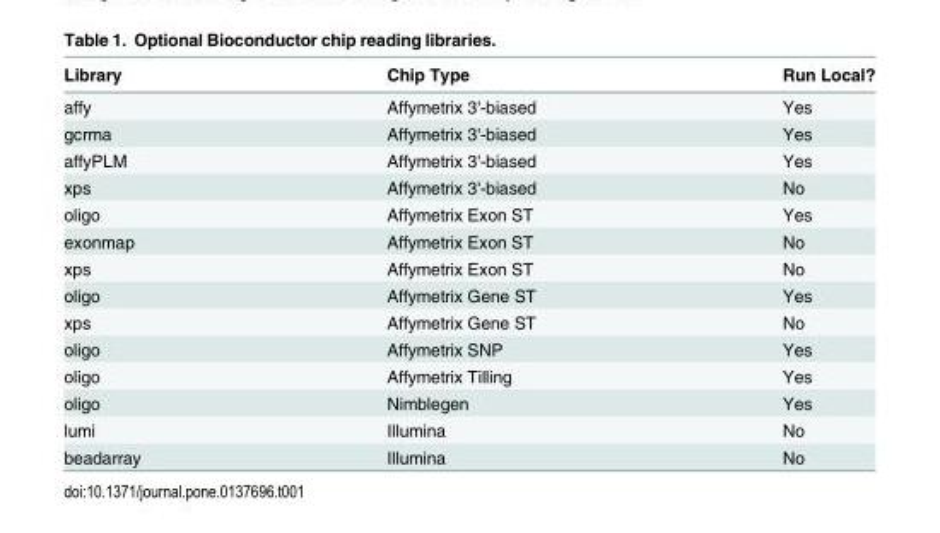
<table><thead><tr><td>Library</td><td>Chip Type</td><td>Run Local?</td></tr></thead><tbody><tr><td>affy</td><td>Affymetrix 3&#x27;-biased</td><td>Yes</td></tr><tr><td>gcrma</td><td>Affymetrix 3&#x27;-biased</td><td>Yes</td></tr><tr><td>affyPLM</td><td>Affymetrix 3&#x27;-biased</td><td>Yes</td></tr><tr><td>xps</td><td>Affymetrix 3&#x27;-biased</td><td>No</td></tr><tr><td>oligo</td><td>Affymetrix Exon ST</td><td>Yes</td></tr><tr><td>exonmap</td><td>Affymetrix Exon ST</td><td>No</td></tr><tr><td>xps</td><td>Affymetrix Exon ST</td><td>No</td></tr><tr><td>oligo</td><td>Affymetrix Gene ST</td><td>Yes</td></tr><tr><td>xps</td><td>Affymetrix Gene ST</td><td>No</td></tr><tr><td>oligo</td><td>Affymetrix SNP</td><td>Yes</td></tr><tr><td>oligo</td><td>Affymetrix Tilling</td><td>Yes</td></tr><tr><td>oligo</td><td>Nimblegen</td><td>Yes</td></tr><tr><td>lumi</td><td>Illumina</td><td>No</td></tr><tr><td>beadarray</td><td>Illumina</td><td>No</td></tr></tbody></table>